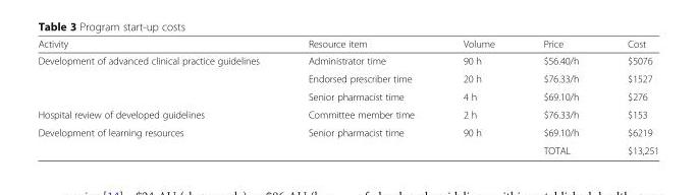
<table><thead><tr><td>Activity</td><td>Resource item</td><td>Volume</td><td>Price</td><td>Cost</td></tr></thead><tbody><tr><td rowspan="3">Development of advanced clinical practice guidelines</td><td>Administrator time</td><td>90 h</td><td>$56.40/h</td><td>$5076</td></tr><tr><td>Endorsed prescriber time</td><td>20 h</td><td>$76.33/h</td><td>$1527</td></tr><tr><td>Senior pharmacist time</td><td>4 h</td><td>$69.10/h</td><td>$276</td></tr><tr><td>Hospital review of developed guidelines</td><td>Committee member time</td><td>2 h</td><td>$76.33/h</td><td>$153</td></tr><tr><td>Development of learning resources</td><td>Senior pharmacist time</td><td>90 h</td><td>$69.10/h</td><td>$6219</td></tr><tr><td colspan="3"></td><td>TOTAL</td><td>$13,251</td></tr></tbody></table>